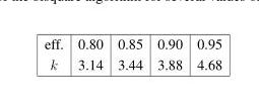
<table><tbody><tr><td>eff.</td><td>0.80</td><td>0.85</td><td>0.90</td><td>0.95</td></tr><tr><td>k</td><td>3.14</td><td>3.44</td><td>3.88</td><td>4.68</td></tr></tbody></table>